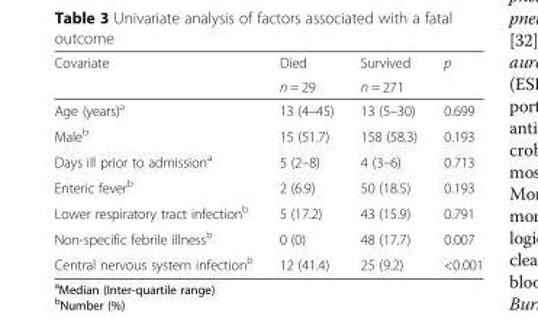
<table><thead><tr><td rowspan="2">Covariate</td><td rowspan="2">Died n = 29</td><td rowspan="2">Survived n = 271</td><td rowspan="2">p</td></tr><tr></tr></thead><tbody><tr><td>Age (years)<sup>a</sup></td><td>13 (4–45)</td><td>13 (5–30)</td><td>0.699</td></tr><tr><td>Male<sup>b</sup></td><td>15 (51.7)</td><td>158 (58.3)</td><td>0.193</td></tr><tr><td>Days ill prior to admission<sup>a</sup></td><td>5 (2–8)</td><td>4 (3–6)</td><td>0.713</td></tr><tr><td>Enteric fever<sup>b</sup></td><td>2 (6.9)</td><td>50 (18.5)</td><td>0.193</td></tr><tr><td>Lower respiratory tract infection<sup>b</sup></td><td>5 (17.2)</td><td>43 (15.9)</td><td>0.791</td></tr><tr><td>Non-specific febrile illness<sup>b</sup></td><td>0 (0)</td><td>48 (17.7)</td><td>0.007</td></tr><tr><td>Central nervous system infection<sup>b</sup></td><td>12 (41.4)</td><td>25 (9.2)</td><td>&lt;0.001</td></tr></tbody></table>